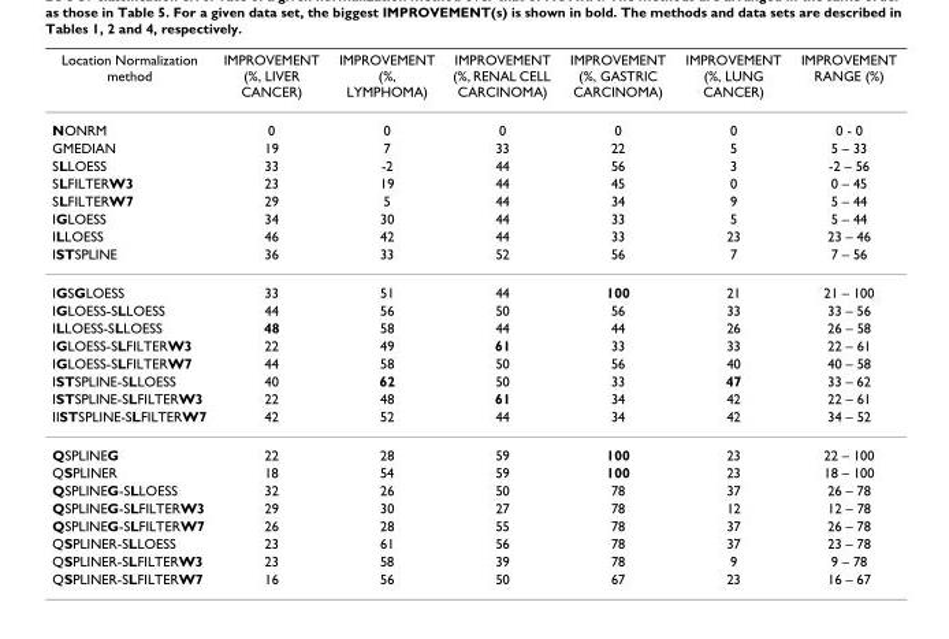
<table><thead><tr><td>Location Normalization method</td><td>IMPROVEMENT (%, LIVER CANCER)</td><td>IMPROVEMENT (%, LYMPHOMA)</td><td>IMPROVEMENT (%, RENAL CELL CARCINOMA)</td><td>IMPROVEMENT (%, GASTRIC CARCINOMA)</td><td>IMPROVEMENT (%, LUNG CANCER)</td><td>IMPROVEMENT RANGE (%)</td></tr></thead><tbody><tr><td>NONRM</td><td>0</td><td>0</td><td>0</td><td>0</td><td>0</td><td>0 - 0</td></tr><tr><td>GMEDIAN</td><td>19</td><td>7</td><td>33</td><td>22</td><td>5</td><td>5 – 33</td></tr><tr><td>SLLOESS</td><td>33</td><td>-2</td><td>44</td><td>56</td><td>3</td><td>-2 – 56</td></tr><tr><td>SLFILTERW3</td><td>23</td><td>19</td><td>44</td><td>45</td><td>0</td><td>0 – 45</td></tr><tr><td>SLFILTERW7</td><td>29</td><td>5</td><td>44</td><td>34</td><td>9</td><td>5 – 44</td></tr><tr><td>IGLOESS</td><td>34</td><td>30</td><td>44</td><td>33</td><td>5</td><td>5 – 44</td></tr><tr><td>ILLOESS</td><td>46</td><td>42</td><td>44</td><td>33</td><td>23</td><td>23 – 46</td></tr><tr><td>ISTSPLINE</td><td>36</td><td>33</td><td>52</td><td>56</td><td>7</td><td>7 – 56</td></tr><tr><td>IGSGLOESS</td><td>33</td><td>51</td><td>44</td><td>100</td><td>21</td><td>21 – 100</td></tr><tr><td>IGLOESS-SLLOESS</td><td>44</td><td>56</td><td>50</td><td>56</td><td>33</td><td>33 – 56</td></tr><tr><td>ILLOESS-SLLOESS</td><td>48</td><td>58</td><td>44</td><td>44</td><td>26</td><td>26 – 58</td></tr><tr><td>IGLOESS-SLFILTERW3</td><td>22</td><td>49</td><td>61</td><td>33</td><td>33</td><td>22 – 61</td></tr><tr><td>IGLOESS-SLFILTERW7</td><td>44</td><td>58</td><td>50</td><td>56</td><td>40</td><td>40 – 58</td></tr><tr><td>ISTSPLINE-SLLOESS</td><td>40</td><td>62</td><td>50</td><td>33</td><td>47</td><td>33 – 62</td></tr><tr><td>ISTSPLINE-SLFILTERW3</td><td>22</td><td>48</td><td>61</td><td>34</td><td>42</td><td>22 – 61</td></tr><tr><td>IISTSPLINE-SLFILTERW7</td><td>42</td><td>52</td><td>44</td><td>34</td><td>42</td><td>34 – 52</td></tr><tr><td>QSPLINEG</td><td>22</td><td>28</td><td>59</td><td>100</td><td>23</td><td>22 – 100</td></tr><tr><td>QSPLINER</td><td>18</td><td>54</td><td>59</td><td>100</td><td>23</td><td>18 – 100</td></tr><tr><td>QSPLINEG-SLLOESS</td><td>32</td><td>26</td><td>50</td><td>78</td><td>37</td><td>26 – 78</td></tr><tr><td>QSPLINEG-SLFILTERW3</td><td>29</td><td>30</td><td>27</td><td>78</td><td>12</td><td>12 – 78</td></tr><tr><td>QSPLINEG-SLFILTERW7</td><td>26</td><td>28</td><td>55</td><td>78</td><td>37</td><td>26 – 78</td></tr><tr><td>QSPLINER-SLLOESS</td><td>23</td><td>61</td><td>56</td><td>78</td><td>37</td><td>23 – 78</td></tr><tr><td>QSPLINER-SLFILTERW3</td><td>23</td><td>58</td><td>39</td><td>78</td><td>9</td><td>9 – 78</td></tr><tr><td>QSPLINER-SLFILTERW7</td><td>16</td><td>56</td><td>50</td><td>67</td><td>23</td><td>16 – 67</td></tr></tbody></table>